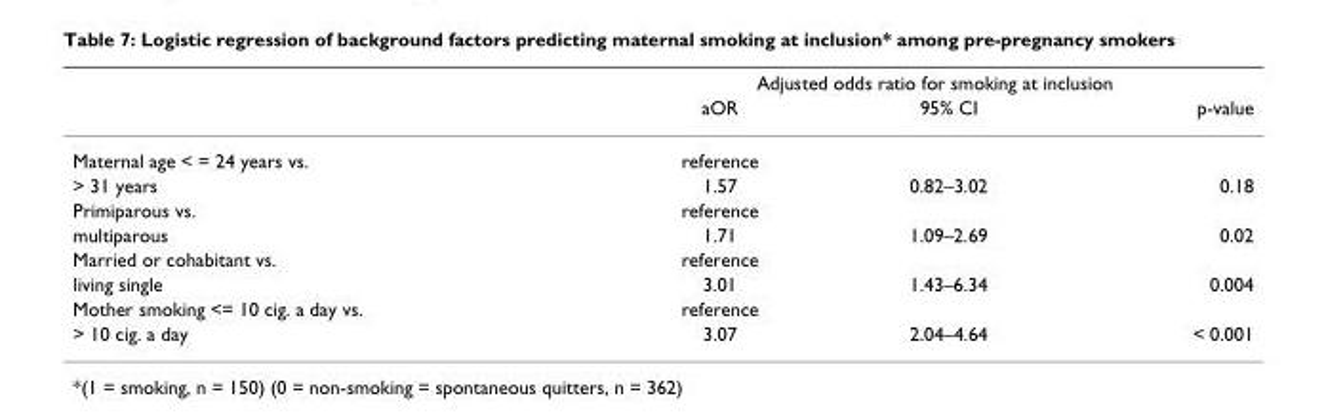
<table><thead><tr><td rowspan="2"></td><td colspan="3">Adjusted odds ratio for smoking at inclusion</td></tr><tr><td>aOR</td><td>95% CI</td><td>p-value</td></tr></thead><tbody><tr><td>Maternal age &lt; = 24 years vs.</td><td>reference</td><td></td><td></td></tr><tr><td>&gt; 31 years</td><td>1.57</td><td>0.82–3.02</td><td>0.18</td></tr><tr><td>Primiparous vs.</td><td>reference</td><td></td><td></td></tr><tr><td>multiparous</td><td>1.71</td><td>1.09–2.69</td><td>0.02</td></tr><tr><td>Married or cohabitant vs.</td><td>reference</td><td></td><td></td></tr><tr><td>living single</td><td>3.01</td><td>1.43–6.34</td><td>0.004</td></tr><tr><td>Mother smoking &lt;= 10 cig. a day vs.</td><td>reference</td><td></td><td></td></tr><tr><td>&gt; 10 cig. a day</td><td>3.07</td><td>2.04–4.64</td><td>&lt; 0.001</td></tr></tbody></table>